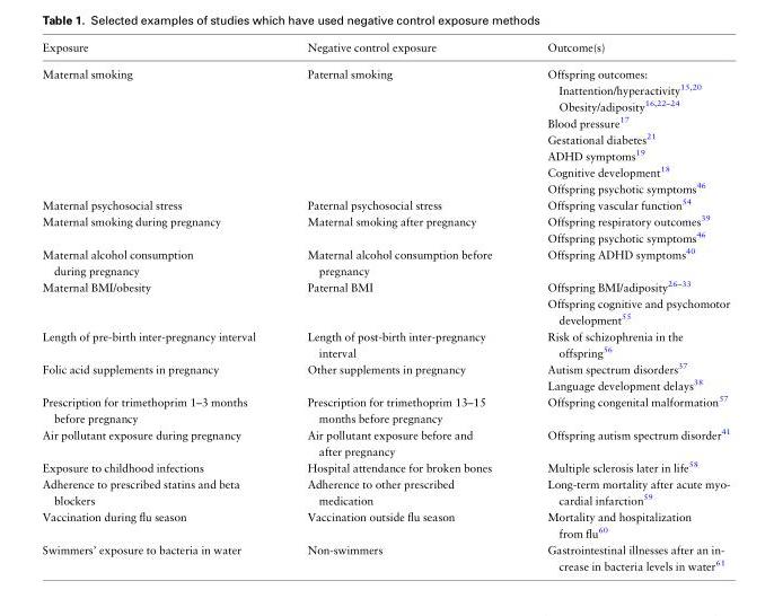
<table><thead><tr><td>Exposure</td><td>Negative control exposure</td><td>Outcome(s)</td></tr></thead><tbody><tr><td rowspan="6">Maternal smoking</td><td rowspan="6">Paternal smoking</td><td>Offspring outcomes: Inattention/hyperactivity<sup>15,20</sup> Obesity/adiposity<sup>16,22–24</sup></td></tr><tr><td>Blood pressure<sup>17</sup></td></tr><tr><td>Gestational diabetes<sup>21</sup></td></tr><tr><td>ADHD symptoms<sup>19</sup></td></tr><tr><td>Cognitive development<sup>18</sup></td></tr><tr><td>Offspring psychotic symptoms<sup>46</sup></td></tr><tr><td>Maternal psychosocial stress</td><td>Paternal psychosocial stress</td><td>Offspring vascular function<sup>54</sup></td></tr><tr><td rowspan="2">Maternal smoking during pregnancy</td><td rowspan="2">Maternal smoking after pregnancy</td><td>Offspring respiratory outcomes<sup>39</sup></td></tr><tr><td>Offspring psychotic symptoms<sup>46</sup></td></tr><tr><td>Maternal alcohol consumption during pregnancy</td><td>Maternal alcohol consumption before pregnancy</td><td>Offspring ADHD symptoms<sup>40</sup></td></tr><tr><td rowspan="2">Maternal BMI/obesity</td><td rowspan="2">Paternal BMI</td><td>Offspring BMI/adiposity<sup>26–33</sup></td></tr><tr><td>Offspring cognitive and psychomotor development<sup>55</sup></td></tr><tr><td>Length of pre-birth inter-pregnancy interval</td><td>Length of post-birth inter-pregnancy interval</td><td>Risk of schizophrenia in the offspring<sup>56</sup></td></tr><tr><td rowspan="2">Folic acid supplements in pregnancy</td><td rowspan="2">Other supplements in pregnancy</td><td>Autism spectrum disorders<sup>37</sup></td></tr><tr><td>Language development delays<sup>38</sup></td></tr><tr><td>Prescription for trimethoprim 1–3 months before pregnancy</td><td>Prescription for trimethoprim 13–15 months before pregnancy</td><td>Offspring congenital malformation<sup>57</sup></td></tr><tr><td>Air pollutant exposure during pregnancy</td><td>Air pollutant exposure before and after pregnancy</td><td>Offspring autism spectrum disorder<sup>41</sup></td></tr><tr><td>Exposure to childhood infections</td><td>Hospital attendance for broken bones</td><td>Multiple sclerosis later in life<sup>58</sup></td></tr><tr><td>Adherence to prescribed statins and beta blockers</td><td>Adherence to other prescribed medication</td><td>Long-term mortality after acute myo- cardial infarction59</td></tr><tr><td>Vaccination during flu season</td><td>Vaccination outside flu season</td><td>Mortality and hospitalization from flu<sup>60</sup></td></tr><tr><td>Swimmers’ exposure to bacteria in water</td><td>Non-swimmers</td><td>Gastrointestinal illnesses after an in- crease in bacteria levels in water61</td></tr></tbody></table>